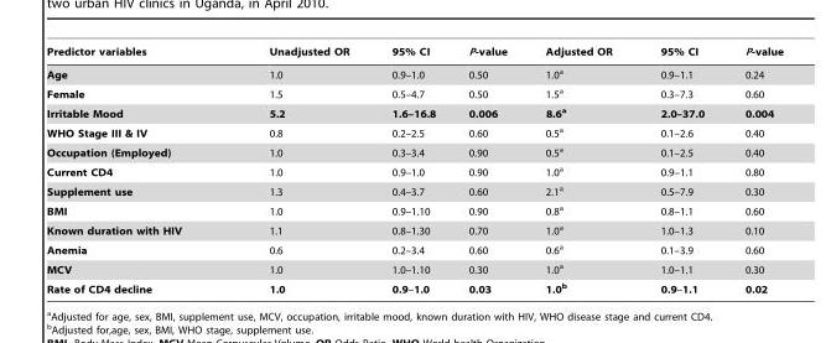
<table><thead><tr><td>Predictor variables</td><td>Unadjusted OR</td><td>95% CI</td><td>P-value</td><td>Adjusted OR</td><td>95% CI</td><td>P-value</td></tr></thead><tbody><tr><td>Age</td><td>1.0</td><td>0.9–1.0</td><td>0.50</td><td>1.0<sup>a</sup></td><td>0.9–1.1</td><td>0.24</td></tr><tr><td>Female</td><td>1.5</td><td>0.5–4.7</td><td>0.50</td><td>1.5<sup>a</sup></td><td>0.3–7.3</td><td>0.60</td></tr><tr><td>Irritable Mood</td><td>5.2</td><td>1.6–16.8</td><td>0.006</td><td>8.6a</td><td>2.0–37.0</td><td>0.004</td></tr><tr><td>WHO Stage III &amp; IV</td><td>0.8</td><td>0.2–2.5</td><td>0.60</td><td>0.5<sup>a</sup></td><td>0.1–2.6</td><td>0.40</td></tr><tr><td>Occupation (Employed)</td><td>1.0</td><td>0.3–3.4</td><td>0.90</td><td>0.5<sup>a</sup></td><td>0.1–2.5</td><td>0.40</td></tr><tr><td>Current CD4</td><td>1.0</td><td>0.9–1.0</td><td>0.90</td><td>1.0<sup>a</sup></td><td>0.9–1.1</td><td>0.80</td></tr><tr><td>Supplement use</td><td>1.3</td><td>0.4–3.7</td><td>0.60</td><td>2.1<sup>a</sup></td><td>0.5–7.9</td><td>0.30</td></tr><tr><td>BMI</td><td>1.0</td><td>0.9–1.10</td><td>0.90</td><td>0.8<sup>a</sup></td><td>0.8–1.1</td><td>0.60</td></tr><tr><td>Known duration with HIV</td><td>1.1</td><td>0.8–1.30</td><td>0.70</td><td>1.0<sup>a</sup></td><td>1.0–1.3</td><td>0.10</td></tr><tr><td>Anemia</td><td>0.6</td><td>0.2–3.4</td><td>0.60</td><td>0.6<sup>a</sup></td><td>0.1–3.9</td><td>0.60</td></tr><tr><td>MCV</td><td>1.0</td><td>1.0–1.10</td><td>0.30</td><td>1.0<sup>a</sup></td><td>1.0–1.1</td><td>0.30</td></tr><tr><td>Rate of CD4 decline</td><td>1.0</td><td>0.9–1.0</td><td>0.03</td><td>1.0b</td><td>0.9–1.1</td><td>0.02</td></tr></tbody></table>